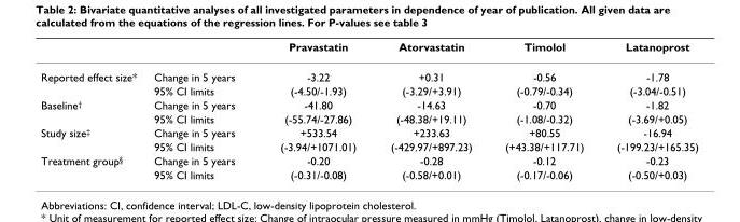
<table><thead><tr><td></td><td></td><td>Pravastatin</td><td>Atorvastatin</td><td>Timolol</td><td>Latanoprost</td></tr></thead><tbody><tr><td rowspan="2">Reported effect size*</td><td>Change in 5 years</td><td>-3.22</td><td>+0.31</td><td>-0.56</td><td>-1.78</td></tr><tr><td>95% CI limits</td><td>(-4.50/-1.93)</td><td>(-3.29/+3.91)</td><td>(-0.79/-0.34)</td><td>(-3.04/-0.51)</td></tr><tr><td rowspan="2">Baseline<sup>†</sup></td><td>Change in 5 years</td><td>-41.80</td><td>-14.63</td><td>-0.70</td><td>-1.82</td></tr><tr><td>95% CI limits</td><td>(-55.74/-27.86)</td><td>(-48.38/+19.11)</td><td>(-1.08/-0.32)</td><td>(-3.69/+0.05)</td></tr><tr><td rowspan="2">Study size<sup>‡</sup></td><td>Change in 5 years</td><td>+533.54</td><td>+233.63</td><td>+80.55</td><td>-16.94</td></tr><tr><td>95% CI limits</td><td>(-3.94/+1071.01)</td><td>(-429.97/+897.23)</td><td>(+43.38/+117.71)</td><td>(-199.23/+165.35)</td></tr><tr><td rowspan="2">Treatment group<sup>§</sup></td><td>Change in 5 years</td><td>-0.20</td><td>-0.28</td><td>-0.12</td><td>-0.23</td></tr><tr><td>95% CI limits</td><td>(-0.31/-0.08)</td><td>(-0.58/+0.01)</td><td>(-0.17/-0.06)</td><td>(-0.50/+0.03)</td></tr></tbody></table>